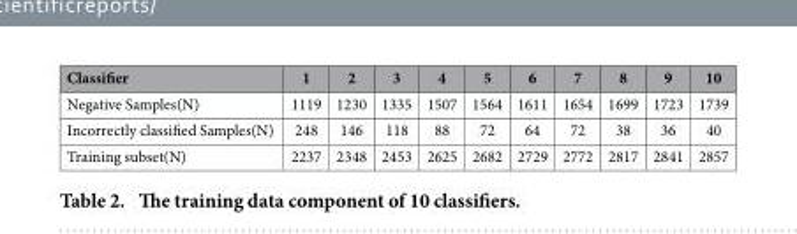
<table><thead><tr><td>Classifier</td><td>1</td><td>2</td><td>3</td><td>4</td><td>5</td><td>6</td><td>7</td><td>8</td><td>9</td><td>10</td></tr></thead><tbody><tr><td>Negative Samples(N)</td><td>1119</td><td>1230</td><td>1335</td><td>1507</td><td>1564</td><td>1611</td><td>1654</td><td>1699</td><td>1723</td><td>1739</td></tr><tr><td>Incorrectly classified Samples(N)</td><td>248</td><td>146</td><td>118</td><td>88</td><td>72</td><td>64</td><td>72</td><td>38</td><td>36</td><td>40</td></tr><tr><td>Training subset(N)</td><td>2237</td><td>2348</td><td>2453</td><td>2625</td><td>2682</td><td>2729</td><td>2772</td><td>2817</td><td>2841</td><td>2857</td></tr></tbody></table>